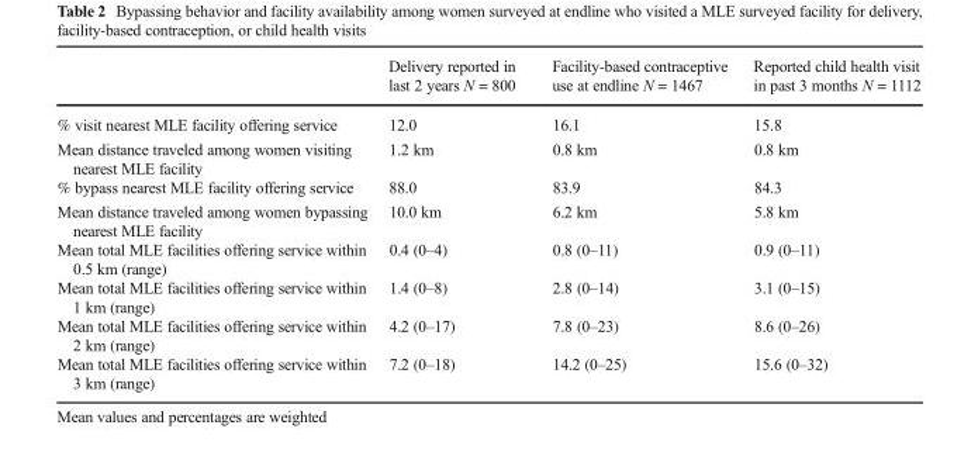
<table><thead><tr><td></td><td>Delivery reported in last 2 years N = 800</td><td>Facility-based contraceptive use at endline N = 1467</td><td>Reported child health visit in past 3 months N = 1112</td></tr></thead><tbody><tr><td>% visit nearest MLE facility offering service</td><td>12.0</td><td>16.1</td><td>15.8</td></tr><tr><td>Mean distance traveled among women visiting nearest MLE facility</td><td>1.2 km</td><td>0.8 km</td><td>0.8 km</td></tr><tr><td>% bypass nearest MLE facility offering service</td><td>88.0</td><td>83.9</td><td>84.3</td></tr><tr><td>Mean distance traveled among women bypassing nearest MLE facility</td><td>10.0 km</td><td>6.2 km</td><td>5.8 km</td></tr><tr><td>Mean total MLE facilities offering service within 0.5 km (range)</td><td>0.4 (0–4)</td><td>0.8 (0–11)</td><td>0.9 (0–11)</td></tr><tr><td>Mean total MLE facilities offering service within 1 km (range)</td><td>1.4 (0–8)</td><td>2.8 (0–14)</td><td>3.1 (0–15)</td></tr><tr><td>Mean total MLE facilities offering service within 2 km (range)</td><td>4.2 (0–17)</td><td>7.8 (0–23)</td><td>8.6 (0–26)</td></tr><tr><td>Mean total MLE facilities offering service within 3 km (range)</td><td>7.2 (0–18)</td><td>14.2 (0–25)</td><td>15.6 (0–32)</td></tr></tbody></table>